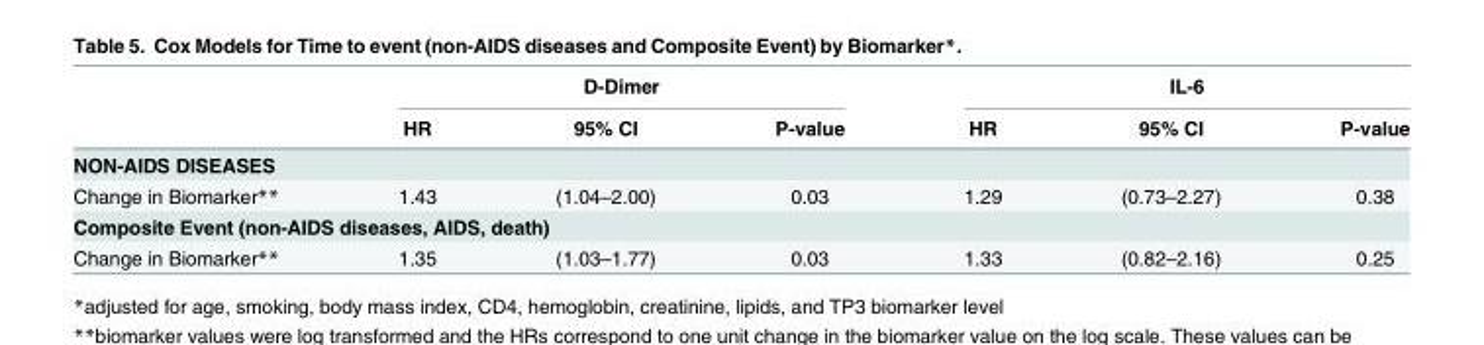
<table><thead><tr><td rowspan="2"></td><td colspan="3">D-Dimer</td><td colspan="3">IL-6</td></tr><tr><td>HR</td><td>95% CI</td><td>P-value</td><td>HR</td><td>95% CI</td><td>P-value</td></tr></thead><tbody><tr><td colspan="7">NON-AIDS DISEASES</td></tr><tr><td>Change in Biomarker**</td><td>1.43</td><td>(1.04–2.00)</td><td>0.03</td><td>1.29</td><td>(0.73–2.27)</td><td>0.38</td></tr><tr><td colspan="7">Composite Event (non-AIDS diseases, AIDS, death)</td></tr><tr><td>Change in Biomarker**</td><td>1.35</td><td>(1.03–1.77)</td><td>0.03</td><td>1.33</td><td>(0.82–2.16)</td><td>0.25</td></tr></tbody></table>